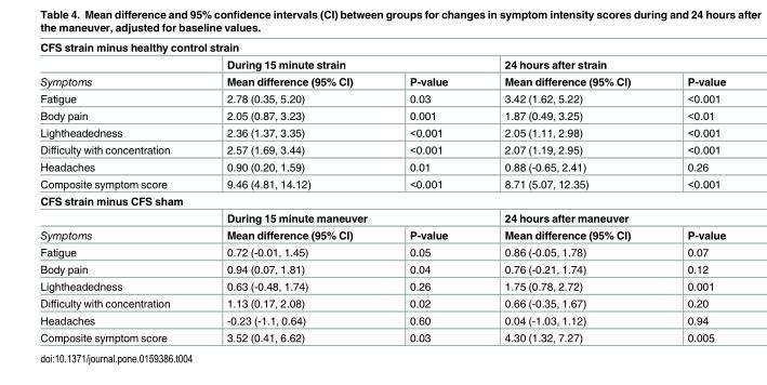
<table><tbody><tr><td colspan="5">CFS strain minus healthy control strain</td></tr><tr><td></td><td colspan="2">During 15 minute strain</td><td colspan="2">24 hours after strain</td></tr><tr><td>Symptoms</td><td>Mean difference (95% CI)</td><td>P-value</td><td>Mean difference (95% CI)</td><td>P-value</td></tr><tr><td>Fatigue</td><td>2.78 (0.35, 5.20)</td><td>0.03</td><td>3.42 (1.62, 5.22)</td><td>&lt;0.001</td></tr><tr><td>Body pain</td><td>2.05 (0.87, 3.23)</td><td>0.001</td><td>1.87 (0.49, 3.25)</td><td>&lt;0.01</td></tr><tr><td>Lightheadedness</td><td>2.36 (1.37, 3.35)</td><td>&lt;0.001</td><td>2.05 (1.11, 2.98)</td><td>&lt;0.001</td></tr><tr><td>Difficulty with concentration</td><td>2.57 (1.69, 3.44)</td><td>&lt;0.001</td><td>2.07 (1.19, 2.95)</td><td>&lt;0.001</td></tr><tr><td>Headaches</td><td>0.90 (0.20, 1.59)</td><td>0.01</td><td>0.88 (-0.65, 2.41)</td><td>0.26</td></tr><tr><td>Composite symptom score</td><td>9.46 (4.81, 14.12)</td><td>&lt;0.001</td><td>8.71 (5.07, 12.35)</td><td>&lt;0.001</td></tr><tr><td colspan="5">CFS strain minus CFS sham</td></tr><tr><td></td><td colspan="2">During 15 minute maneuver</td><td colspan="2">24 hours after maneuver</td></tr><tr><td>Symptoms</td><td>Mean difference (95% CI)</td><td>P-value</td><td>Mean difference (95% CI)</td><td>P-value</td></tr><tr><td>Fatigue</td><td>0.72 (-0.01, 1.45)</td><td>0.05</td><td>0.86 (-0.05, 1.78)</td><td>0.07</td></tr><tr><td>Body pain</td><td>0.94 (0.07, 1.81)</td><td>0.04</td><td>0.76 (-0.21, 1.74)</td><td>0.12</td></tr><tr><td>Lightheadedness</td><td>0.63 (-0.48, 1.74)</td><td>0.26</td><td>1.75 (0.78, 2.72)</td><td>0.001</td></tr><tr><td>Difficulty with concentration</td><td>1.13 (0.17, 2.08)</td><td>0.02</td><td>0.66 (-0.35, 1.67)</td><td>0.20</td></tr><tr><td>Headaches</td><td>-0.23 (-1.1, 0.64)</td><td>0.60</td><td>0.04 (-1.03, 1.12)</td><td>0.94</td></tr><tr><td>Composite symptom score</td><td>3.52 (0.41, 6.62)</td><td>0.03</td><td>4.30 (1.32, 7.27)</td><td>0.005</td></tr></tbody></table>